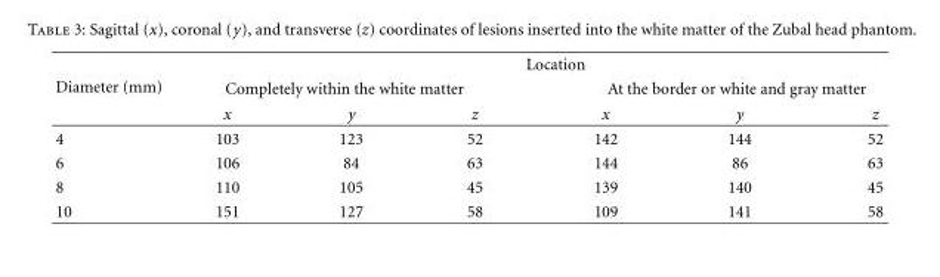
<table><thead><tr><td rowspan="3">Diameter (mm)</td><td colspan="6">Location</td></tr><tr><td colspan="3">Completely within the white matter</td><td colspan="3">At the border or white and gray matter</td></tr><tr><td>x</td><td>y</td><td>z</td><td>x</td><td>y</td><td>z</td></tr></thead><tbody><tr><td>4</td><td>103</td><td>123</td><td>52</td><td>142</td><td>144</td><td>52</td></tr><tr><td>6</td><td>106</td><td>84</td><td>63</td><td>144</td><td>86</td><td>63</td></tr><tr><td>8</td><td>110</td><td>105</td><td>45</td><td>139</td><td>140</td><td>45</td></tr><tr><td>10</td><td>151</td><td>127</td><td>58</td><td>109</td><td>141</td><td>58</td></tr></tbody></table>